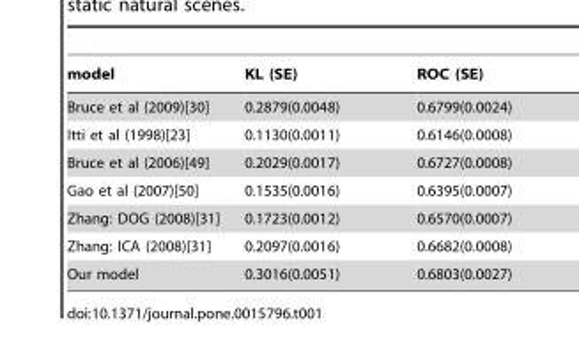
<table><thead><tr><td>model</td><td>KL (SE)</td><td>ROC (SE)</td></tr></thead><tbody><tr><td>Bruce et al (2009)[30]</td><td>0.2879(0.0048)</td><td>0.6799(0.0024)</td></tr><tr><td>Itti et al (1998)[23]</td><td>0.1130(0.0011)</td><td>0.6146(0.0008)</td></tr><tr><td>Bruce et al (2006)[49]</td><td>0.2029(0.0017)</td><td>0.6727(0.0008)</td></tr><tr><td>Gao et al (2007)[50]</td><td>0.1535(0.0016)</td><td>0.6395(0.0007)</td></tr><tr><td>Zhang: DOG (2008)[31]</td><td>0.1723(0.0012)</td><td>0.6570(0.0007)</td></tr><tr><td>Zhang: ICA (2008)[31]</td><td>0.2097(0.0016)</td><td>0.6682(0.0008)</td></tr><tr><td>Our model</td><td>0.3016(0.0051)</td><td>0.6803(0.0027)</td></tr></tbody></table>